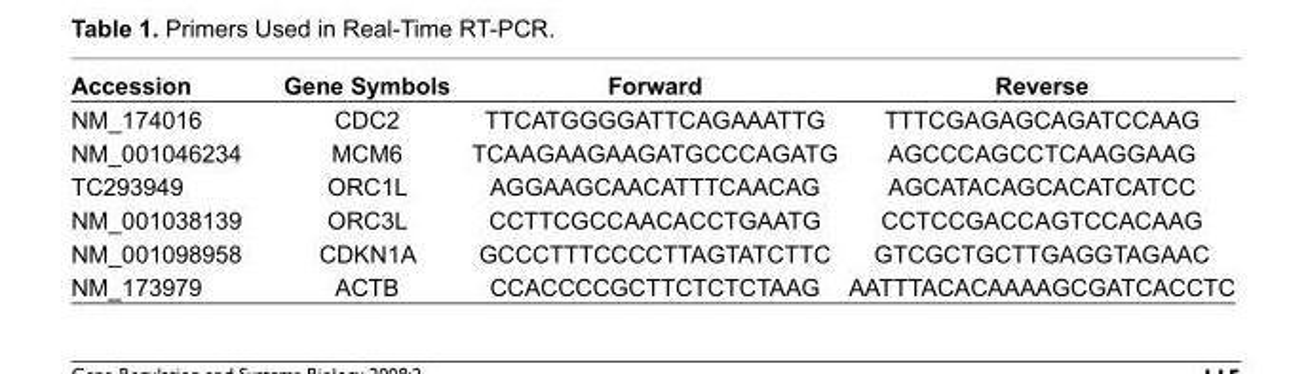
<table><thead><tr><td>Accession</td><td>Gene Symbols</td><td>Forward</td><td>Reverse</td></tr></thead><tbody><tr><td>NM_174016</td><td>CDC2</td><td>TTCATGGGGATTCAGAAATTG</td><td>TTTCGAGAGCAGATCCAAG</td></tr><tr><td>NM_001046234</td><td>MCM6</td><td>TCAAGAAGAAGATGCCCAGATG</td><td>AGCCCAGCCTCAAGGAAG</td></tr><tr><td>TC293949</td><td>ORC1L</td><td>AGGAAGCAACATTTCAACAG</td><td>AGCATACAGCACATCATCC</td></tr><tr><td>NM_001038139</td><td>ORC3L</td><td>CCTTCGCCAACACCTGAATG</td><td>CCTCCGACCAGTCCACAAG</td></tr><tr><td>NM_001098958</td><td>CDKN1A</td><td>GCCCTTTCCCCTTAGTATCTTC</td><td>GTCGCTGCTTGAGGTAGAAC</td></tr><tr><td>NM_173979</td><td>ACTB</td><td>CCACCCCGCTTCTCTCTAAG</td><td>AATTTACACAAAAGCGATCACCTC</td></tr></tbody></table>